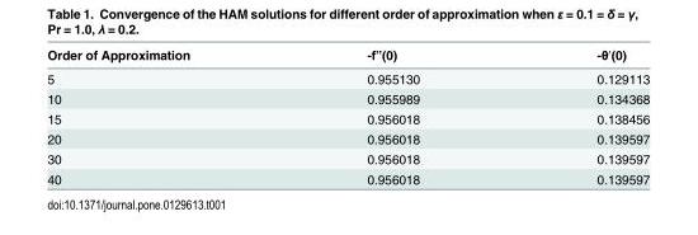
<table><thead><tr><td>Order of Approximation</td><td>-f”(0)</td><td>-θ′(0)</td></tr></thead><tbody><tr><td>5</td><td>0.955130</td><td>0.129113</td></tr><tr><td>10</td><td>0.955989</td><td>0.134368</td></tr><tr><td>15</td><td>0.956018</td><td>0.138456</td></tr><tr><td>20</td><td>0.956018</td><td>0.139597</td></tr><tr><td>30</td><td>0.956018</td><td>0.139597</td></tr><tr><td>40</td><td>0.956018</td><td>0.139597</td></tr></tbody></table>